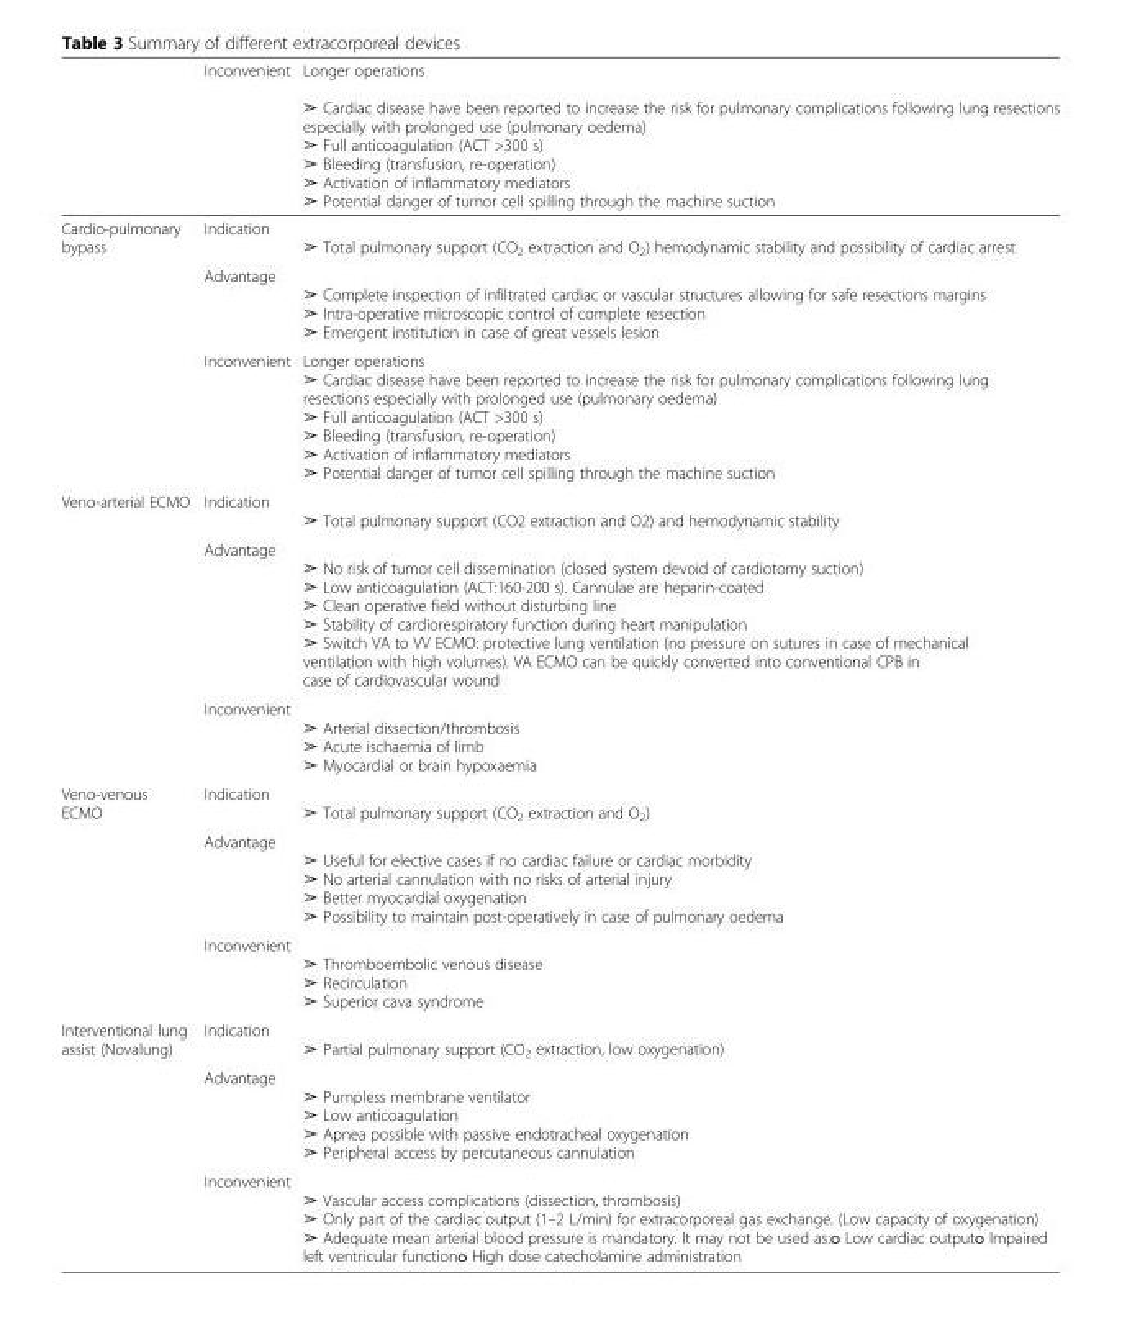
<table><thead><tr><td></td><td>Inconvenient</td><td>Longer operations ➢ Cardiac disease have been reported to increase the risk for pulmonary complications following lung resections especially with prolonged use (pulmonary oedema) ➢ Full anticoagulation (ACT &gt;300 s) ➢ Bleeding (transfusion, re-operation) ➢ Activation of inflammatory mediators ➢ Potential danger of tumor cell spilling through the machine suction</td></tr></thead><tbody><tr><td rowspan="3">Cardio-pulmonary bypass</td><td>Indication</td><td>➢ Total pulmonary support (CO<sub>2</sub> extraction and O<sub>2</sub>) hemodynamic stability and possibility of cardiac arrest</td></tr><tr><td>Advantage</td><td>➢ Complete inspection of infiltrated cardiac or vascular structures allowing for safe resections margins ➢ Intra-operative microscopic control of complete resection ➢ Emergent institution in case of great vessels lesion</td></tr><tr><td>Inconvenient</td><td>Longer operations ➢ Cardiac disease have been reported to increase the risk for pulmonary complications following lung resections especially with prolonged use (pulmonary oedema) ➢ Full anticoagulation (ACT &gt;300 s) ➢ Bleeding (transfusion, re-operation) ➢ Activation of inflammatory mediators ➢ Potential danger of tumor cell spilling through the machine suction</td></tr><tr><td rowspan="3">Veno-arterial ECMO</td><td>Indication</td><td>➢ Total pulmonary support (CO2 extraction and O2) and hemodynamic stability</td></tr><tr><td>Advantage</td><td>➢ No risk of tumor cell dissemination (closed system devoid of cardiotomy suction) ➢ Low anticoagulation (ACT:160-200 s). Cannulae are heparin-coated ➢ Clean operative field without disturbing line ➢ Stability of cardiorespiratory function during heart manipulation ➢ Switch VA to VV ECMO: protective lung ventilation (no pressure on sutures in case of mechanical ventilation with high volumes). VA ECMO can be quickly converted into conventional CPB in case of cardiovascular wound</td></tr><tr><td>Inconvenient</td><td>➢ Arterial dissection/thrombosis ➢ Acute ischaemia of limb ➢ Myocardial or brain hypoxaemia</td></tr><tr><td rowspan="3">Veno-venous ECMO</td><td>Indication</td><td>➢ Total pulmonary support (CO<sub>2</sub> extraction and O<sub>2</sub>)</td></tr><tr><td>Advantage</td><td>➢ Useful for elective cases if no cardiac failure or cardiac morbidity ➢ No arterial cannulation with no risks of arterial injury ➢ Better myocardial oxygenation ➢ Possibility to maintain post-operatively in case of pulmonary oedema</td></tr><tr><td>Inconvenient</td><td>➢ Thromboembolic venous disease ➢ Recirculation ➢ Superior cava syndrome</td></tr><tr><td rowspan="3">Interventional lung assist (Novalung)</td><td>Indication</td><td>➢ Partial pulmonary support (CO<sub>2</sub> extraction, low oxygenation)</td></tr><tr><td>Advantage</td><td>➢ Pumpless membrane ventilator ➢ Low anticoagulation ➢ Apnea possible with passive endotracheal oxygenation ➢ Peripheral access by percutaneous cannulation</td></tr><tr><td>Inconvenient</td><td>➢ Vascular access complications (dissection, thrombosis) ➢ Only part of the cardiac output (1–2 L/min) for extracorporeal gas exchange. (Low capacity of oxygenation) ➢ Adequate mean arterial blood pressure is mandatory. It may not be used as:o Low cardiac outputo Impaired left ventricular functiono High dose catecholamine administration</td></tr></tbody></table>